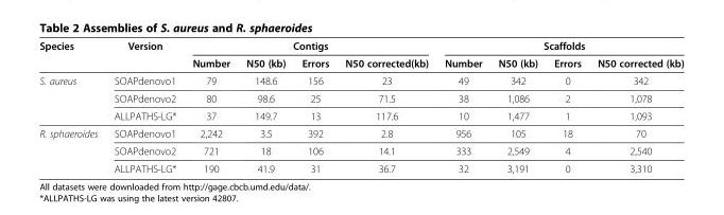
<table><thead><tr><td rowspan="2">Species</td><td rowspan="2">Version</td><td colspan="4">Contigs</td><td colspan="4">Scaffolds</td></tr><tr><td>Number</td><td>N50 (kb)</td><td>Errors</td><td>N50 corrected(kb)</td><td>Number</td><td>N50 (kb)</td><td>Errors</td><td>N50 corrected (kb)</td></tr></thead><tbody><tr><td rowspan="3">S. aureus</td><td>SOAPdenovo1</td><td>79</td><td>148.6</td><td>156</td><td>23</td><td>49</td><td>342</td><td>0</td><td>342</td></tr><tr><td>SOAPdenovo2</td><td>80</td><td>98.6</td><td>25</td><td>71.5</td><td>38</td><td>1,086</td><td>2</td><td>1,078</td></tr><tr><td>ALLPATHS-LG*</td><td>37</td><td>149.7</td><td>13</td><td>117.6</td><td>10</td><td>1,477</td><td>1</td><td>1,093</td></tr><tr><td rowspan="3">R. sphaeroides</td><td>SOAPdenovo1</td><td>2,242</td><td>3.5</td><td>392</td><td>2.8</td><td>956</td><td>105</td><td>18</td><td>70</td></tr><tr><td>SOAPdenovo2</td><td>721</td><td>18</td><td>106</td><td>14.1</td><td>333</td><td>2,549</td><td>4</td><td>2,540</td></tr><tr><td>ALLPATHS-LG*</td><td>190</td><td>41.9</td><td>31</td><td>36.7</td><td>32</td><td>3,191</td><td>0</td><td>3,310</td></tr></tbody></table>